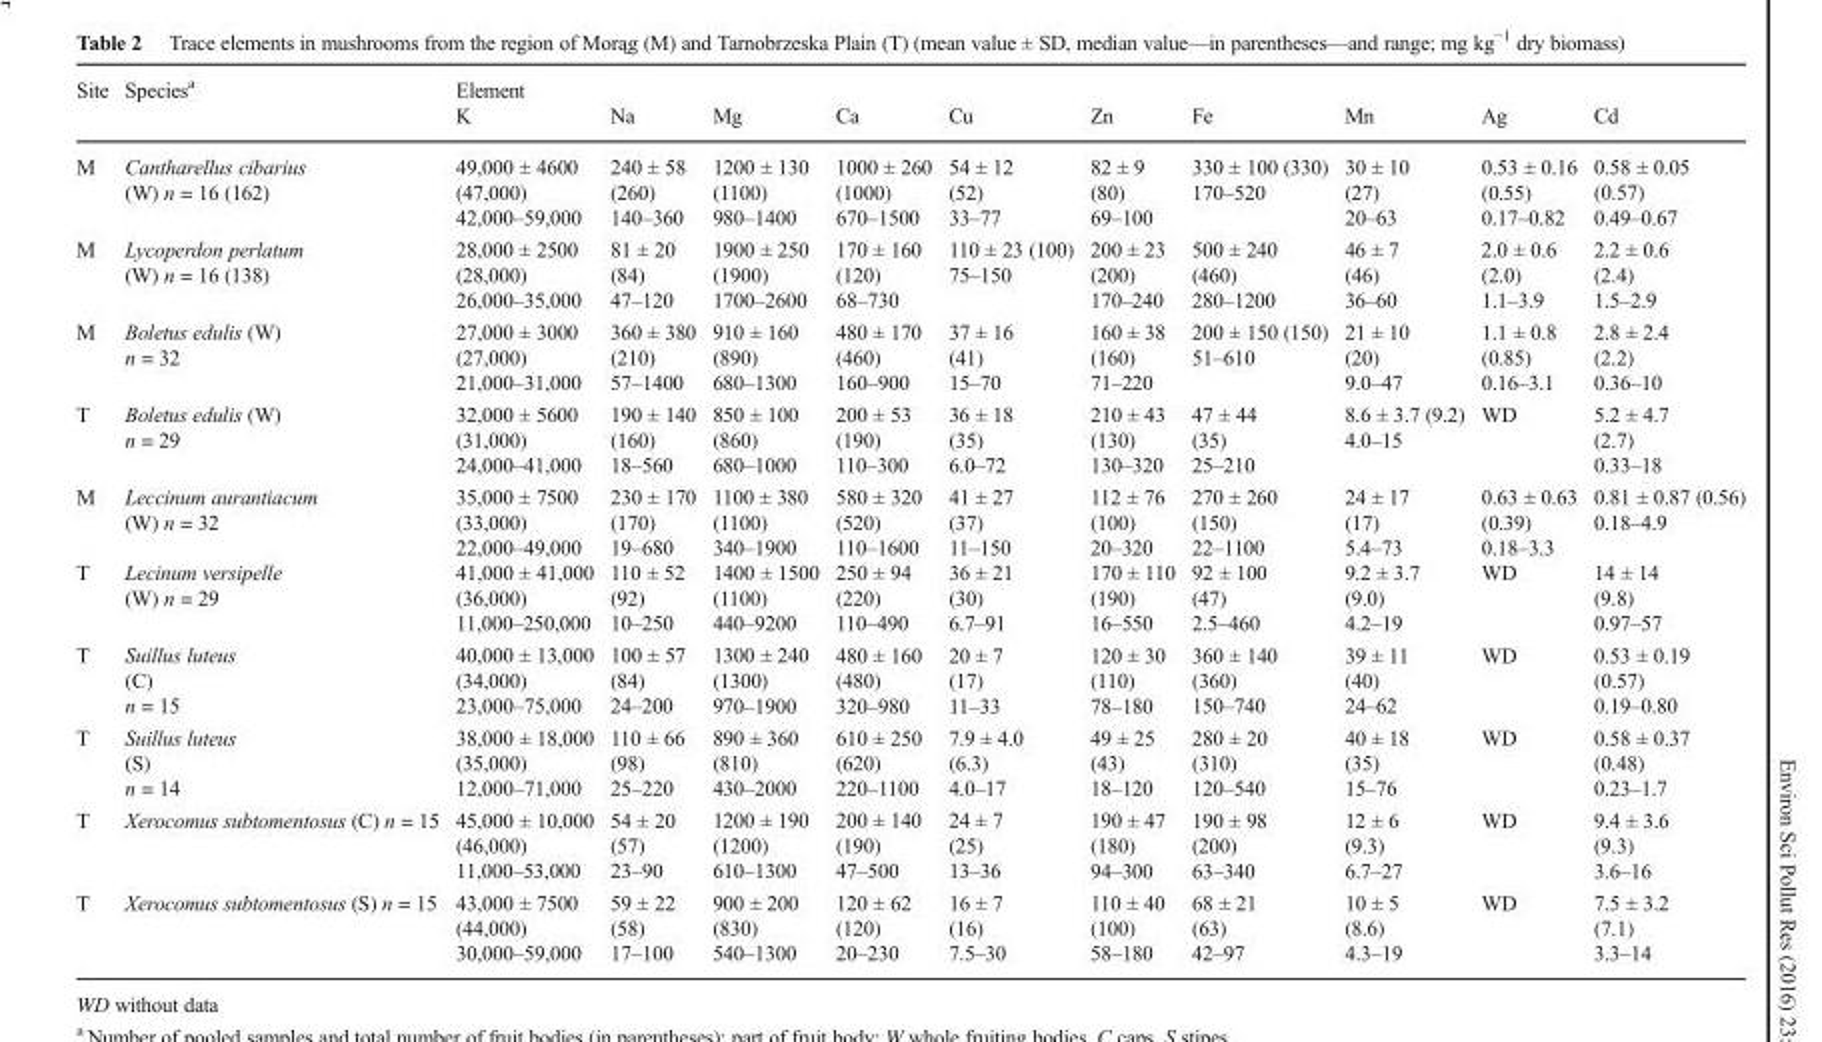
<table><thead><tr><td rowspan="2">Site</td><td rowspan="2">Species<sup>a</sup></td><td rowspan="2">Element K</td><td rowspan="2">Na</td><td rowspan="2">Mg</td><td rowspan="2">Ca</td><td rowspan="2">Cu</td><td rowspan="2">Zn</td><td rowspan="2">Fe</td><td rowspan="2">Mn</td><td rowspan="2">Ag</td><td rowspan="2">Cd</td></tr><tr></tr></thead><tbody><tr><td>M</td><td>Cantharellus cibarius (W) n = 16 (162)</td><td>49,000 ± 4600 (47,000) 42,000–59,000</td><td>240 ± 58 (260) 140–360</td><td>1200 ± 130 (1100) 980–1400</td><td>1000 ± 260 (1000) 670–1500</td><td>54 ± 12 (52) 33–77</td><td>82 ± 9 (80) 69–100</td><td>330 ± 100 (330) 170–520</td><td>30 ± 10 (27) 20–63</td><td>0.53 ± 0.16 (0.55) 0.17–0.82</td><td>0.58 ± 0.05 (0.57) 0.49–0.67</td></tr><tr><td>M</td><td>Lycoperdon perlatum (W) n = 16 (138)</td><td>28,000 ± 2500 (28,000) 26,000–35,000</td><td>81 ± 20 (84) 47–120</td><td>1900 ± 250 (1900) 1700–2600</td><td>170 ± 160 (120) 68–730</td><td>110 ± 23 (100) 75–150</td><td>200 ± 23 (200) 170–240</td><td>500 ± 240 (460) 280–1200</td><td>46 ± 7 (46) 36–60</td><td>2.0 ± 0.6 (2.0) 1.1–3.9</td><td>2.2 ± 0.6 (2.4) 1.5–2.9</td></tr><tr><td>M</td><td>Boletus edulis (W) n = 32</td><td>27,000 ± 3000 (27,000) 21,000–31,000</td><td>360 ± 380 (210) 57–1400</td><td>910 ± 160 (890) 680–1300</td><td>480 ± 170 (460) 160–900</td><td>37 ± 16 (41) 15–70</td><td>160 ± 38 (160) 71–220</td><td>200 ± 150 (150) 51–610</td><td>21 ± 10 (20) 9.0–47</td><td>1.1 ± 0.8 (0.85) 0.16–3.1</td><td>2.8 ± 2.4 (2.2) 0.36–10</td></tr><tr><td>T</td><td>Boletus edulis (W) n = 29</td><td>32,000 ± 5600 (31,000) 24,000–41,000</td><td>190 ± 140 (160) 18–560</td><td>850 ± 100 (860) 680–1000</td><td>200 ± 53 (190) 110–300</td><td>36 ± 18 (35) 6.0–72</td><td>210 ± 43 (130) 130–320</td><td>47 ± 44 (35) 25–210</td><td>8.6 ± 3.7 (9.2) 4.0–15</td><td>WD</td><td>5.2 ± 4.7 (2.7) 0.33–18</td></tr><tr><td>M</td><td>Leccinum aurantiacum (W) n = 32</td><td>35,000 ± 7500 (33,000) 22,000–49,000</td><td>230 ± 170 (170) 19–680</td><td>1100 ± 380 (1100) 340–1900</td><td>580 ± 320 (520) 110–1600</td><td>41 ± 27 (37) 11–150</td><td>112 ± 76 (100) 20–320</td><td>270 ± 260 (150) 22–1100</td><td>24 ± 17 (17) 5.4–73</td><td>0.63 ± 0.63 (0.39) 0.18–3.3</td><td>0.81 ± 0.87 (0.56) 0.18–4.9</td></tr><tr><td>T</td><td>Lecinum versipelle (W) n = 29</td><td>41,000 ± 41,000 (36,000) 11,000–250,000</td><td>110 ± 52 (92) 10–250</td><td>1400 ± 1500 (1100) 440–9200</td><td>250 ± 94 (220) 110–490</td><td>36 ± 21 (30) 6.7–91</td><td>170 ± 110 (190) 16–550</td><td>92 ± 100 (47) 2.5–460</td><td>9.2 ± 3.7 (9.0) 4.2–19</td><td>WD</td><td>14 ± 14 (9.8) 0.97–57</td></tr><tr><td>T</td><td>Suillus luteus (C) n = 15</td><td>40,000 ± 13,000 (34,000) 23,000–75,000</td><td>100 ± 57 (84) 24–200</td><td>1300 ± 240 (1300) 970–1900</td><td>480 ± 160 (480) 320–980</td><td>20 ± 7 (17) 11–33</td><td>120 ± 30 (110) 78–180</td><td>360 ± 140 (360) 150–740</td><td>39 ± 11 (40) 24–62</td><td>WD</td><td>0.53 ± 0.19 (0.57) 0.19–0.80</td></tr><tr><td>T</td><td>Suillus luteus (S) n = 14</td><td>38,000 ± 18,000 (35,000) 12,000–71,000</td><td>110 ± 66 (98) 25–220</td><td>890 ± 360 (810) 430–2000</td><td>610 ± 250 (620) 220–1100</td><td>7.9 ± 4.0 (6.3) 4.0–17</td><td>49 ± 25 (43) 18–120</td><td>280 ± 20 (310) 120–540</td><td>40 ± 18 (35) 15–76</td><td>WD</td><td>0.58 ± 0.37 (0.48) 0.23–1.7</td></tr><tr><td>T</td><td>Xerocomus subtomentosus (C) n = 15</td><td>45,000 ± 10,000 (46,000) 11,000–53,000</td><td>54 ± 20 (57) 23–90</td><td>1200 ± 190 (1200) 610–1300</td><td>200 ± 140 (190) 47–500</td><td>24 ± 7 (25) 13–36</td><td>190 ± 47 (180) 94–300</td><td>190 ± 98 (200) 63–340</td><td>12 ± 6 (9.3) 6.7–27</td><td>WD</td><td>9.4 ± 3.6 (9.3) 3.6–16</td></tr><tr><td>T</td><td>Xerocomus subtomentosus (S) n = 15</td><td>43,000 ± 7500 (44,000) 30,000–59,000</td><td>59 ± 22 (58) 17–100</td><td>900 ± 200 (830) 540–1300</td><td>120 ± 62 (120) 20–230</td><td>16 ± 7 (16) 7.5–30</td><td>110 ± 40 (100) 58–180</td><td>68 ± 21 (63) 42–97</td><td>10 ± 5 (8.6) 4.3–19</td><td>WD</td><td>7.5 ± 3.2 (7.1) 3.3–14</td></tr></tbody></table>